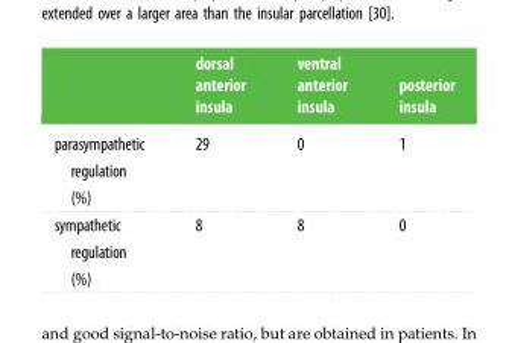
<table><thead><tr><td></td><td>dorsal anterior insula</td><td>ventral anterior insula</td><td>posterior insula</td></tr></thead><tbody><tr><td>parasympathetic regulation (%)</td><td>29</td><td>0</td><td>1</td></tr><tr><td>sympathetic regulation (%)</td><td>8</td><td>8</td><td>0</td></tr></tbody></table>